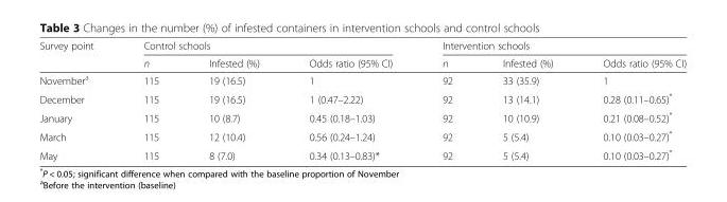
<table><thead><tr><td rowspan="2">Survey point</td><td colspan="3">Control schools</td><td colspan="3">Intervention schools</td></tr><tr><td>n</td><td>Infested (%)</td><td>Odds ratio (95% CI)</td><td>n</td><td>Infested (%)</td><td>Odds ratio (95% CI)</td></tr></thead><tbody><tr><td>November<sup>a</sup></td><td>115</td><td>19 (16.5)</td><td>1</td><td>92</td><td>33 (35.9)</td><td>1</td></tr><tr><td>December</td><td>115</td><td>19 (16.5)</td><td>1 (0.47–2.22)</td><td>92</td><td>13 (14.1)</td><td>0.28 (0.11–0.65)*</td></tr><tr><td>January</td><td>115</td><td>10 (8.7)</td><td>0.45 (0.18–1.03)</td><td>92</td><td>10 (10.9)</td><td>0.21 (0.08–0.52)*</td></tr><tr><td>March</td><td>115</td><td>12 (10.4)</td><td>0.56 (0.24–1.24)</td><td>92</td><td>5 (5.4)</td><td>0.10 (0.03–0.27)*</td></tr><tr><td>May</td><td>115</td><td>8 (7.0)</td><td>0.34 (0.13–0.83)*</td><td>92</td><td>5 (5.4)</td><td>0.10 (0.03–0.27)*</td></tr></tbody></table>